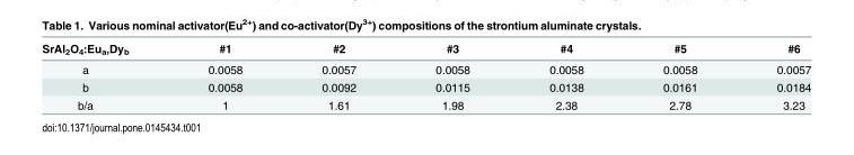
<table><thead><tr><td>SrAl<sub>2</sub>O<sub>4</sub>:Eu<sub>a</sub>,Dy<sub>b</sub></td><td>#1</td><td>#2</td><td>#3</td><td>#4</td><td>#5</td><td>#6</td></tr></thead><tbody><tr><td>a</td><td>0.0058</td><td>0.0057</td><td>0.0058</td><td>0.0058</td><td>0.0058</td><td>0.0057</td></tr><tr><td>b</td><td>0.0058</td><td>0.0092</td><td>0.0115</td><td>0.0138</td><td>0.0161</td><td>0.0184</td></tr><tr><td>b/a</td><td>1</td><td>1.61</td><td>1.98</td><td>2.38</td><td>2.78</td><td>3.23</td></tr></tbody></table>